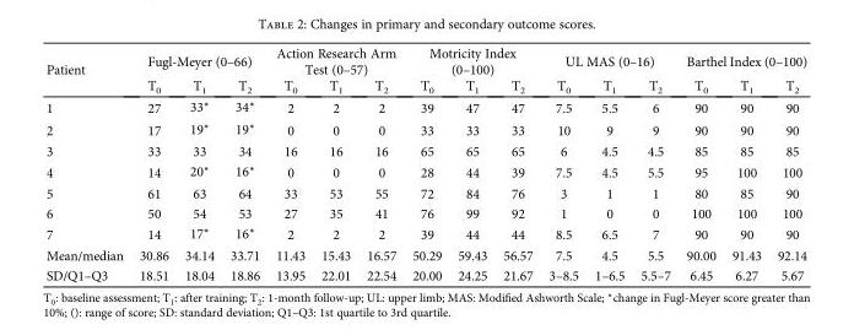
<table><thead><tr><td rowspan="2">Patient</td><td colspan="3">Fugl-Meyer (0–66)</td><td colspan="3">Action Research Arm Test (0–57)</td><td colspan="3">Motricity Index (0–100)</td><td colspan="3">UL MAS (0–16)</td><td colspan="3">Barthel Index (0–100)</td></tr><tr><td>T<sub>0</sub></td><td>T<sub>1</sub></td><td>T<sub>2</sub></td><td>T<sub>0</sub></td><td>T<sub>1</sub></td><td>T<sub>2</sub></td><td>T<sub>0</sub></td><td>T<sub>1</sub></td><td>T<sub>2</sub></td><td>T<sub>0</sub></td><td>T<sub>1</sub></td><td>T<sub>2</sub></td><td>T<sub>0</sub></td><td>T<sub>1</sub></td><td>T<sub>2</sub></td></tr></thead><tbody><tr><td>1</td><td>27</td><td>33∗</td><td>34∗</td><td>2</td><td>2</td><td>2</td><td>39</td><td>47</td><td>47</td><td>7.5</td><td>5.5</td><td>6</td><td>90</td><td>90</td><td>90</td></tr><tr><td>2</td><td>17</td><td>19∗</td><td>19∗</td><td>0</td><td>0</td><td>0</td><td>33</td><td>33</td><td>33</td><td>10</td><td>9</td><td>9</td><td>90</td><td>90</td><td>90</td></tr><tr><td>3</td><td>33</td><td>33</td><td>34</td><td>16</td><td>16</td><td>16</td><td>65</td><td>65</td><td>65</td><td>6</td><td>4.5</td><td>4.5</td><td>85</td><td>85</td><td>85</td></tr><tr><td>4</td><td>14</td><td>20∗</td><td>16∗</td><td>0</td><td>0</td><td>0</td><td>28</td><td>44</td><td>39</td><td>7.5</td><td>4.5</td><td>5.5</td><td>95</td><td>100</td><td>100</td></tr><tr><td>5</td><td>61</td><td>63</td><td>64</td><td>33</td><td>53</td><td>55</td><td>72</td><td>84</td><td>76</td><td>3</td><td>1</td><td>1</td><td>80</td><td>85</td><td>90</td></tr><tr><td>6</td><td>50</td><td>54</td><td>53</td><td>27</td><td>35</td><td>41</td><td>76</td><td>99</td><td>92</td><td>1</td><td>0</td><td>0</td><td>100</td><td>100</td><td>100</td></tr><tr><td>7</td><td>14</td><td>17∗</td><td>16∗</td><td>2</td><td>2</td><td>2</td><td>39</td><td>44</td><td>44</td><td>8.5</td><td>6.5</td><td>7</td><td>90</td><td>90</td><td>90</td></tr><tr><td>Mean/median</td><td>30.86</td><td>34.14</td><td>33.71</td><td>11.43</td><td>15.43</td><td>16.57</td><td>50.29</td><td>59.43</td><td>56.57</td><td>7.5</td><td>4.5</td><td>5.5</td><td>90.00</td><td>91.43</td><td>92.14</td></tr><tr><td>SD/Q1–Q3</td><td>18.51</td><td>18.04</td><td>18.86</td><td>13.95</td><td>22.01</td><td>22.54</td><td>20.00</td><td>24.25</td><td>21.67</td><td>3–8.5</td><td>1–6.5</td><td>5.5–7</td><td>6.45</td><td>6.27</td><td>5.67</td></tr></tbody></table>